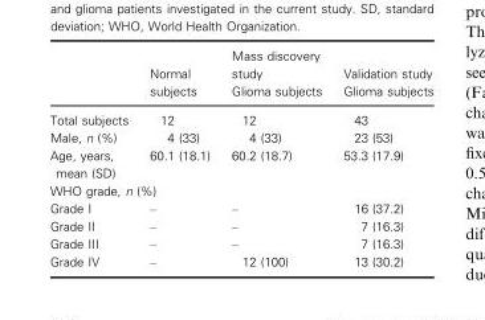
<table><thead><tr><td rowspan="2"></td><td rowspan="2">Normal subjects</td><td rowspan="2">Mass discovery study Glioma subjects</td><td rowspan="2">Validation study Glioma subjects</td></tr><tr></tr></thead><tbody><tr><td>Total subjects</td><td>12</td><td>12</td><td>43</td></tr><tr><td>Male, n (%)</td><td>4 (33)</td><td>4 (33)</td><td>23 (53)</td></tr><tr><td>Age, years, mean (SD)</td><td>60.1 (18.1)</td><td>60.2 (18.7)</td><td>53.3 (17.9)</td></tr><tr><td colspan="4">WHO grade, n (%)</td></tr><tr><td>Grade I</td><td>–</td><td>–</td><td>16 (37.2)</td></tr><tr><td>Grade II</td><td>–</td><td>–</td><td>7 (16.3)</td></tr><tr><td>Grade III</td><td>–</td><td>–</td><td>7 (16.3)</td></tr><tr><td>Grade IV</td><td>–</td><td>12 (100)</td><td>13 (30.2)</td></tr></tbody></table>